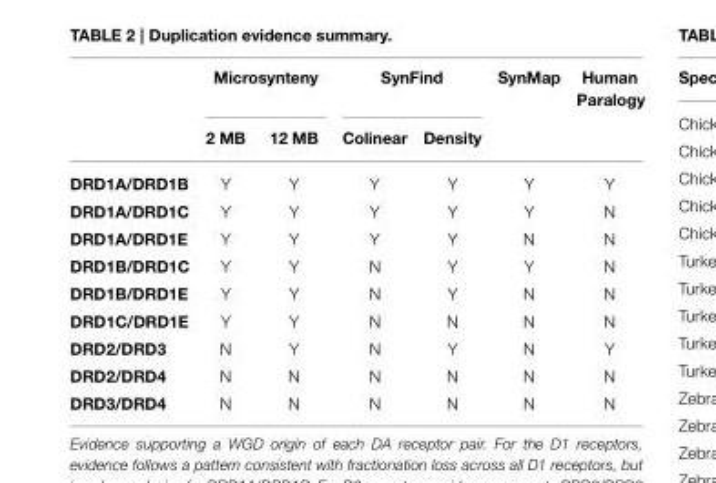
<table><thead><tr><td rowspan="2"></td><td colspan="2">Microsynteny</td><td colspan="2">SynFind</td><td rowspan="2">SynMap</td><td rowspan="2">Human Paralogy</td></tr><tr><td>2 MB</td><td>12 MB</td><td>Colinear</td><td>Density</td></tr></thead><tbody><tr><td>DRD1A/DRD1B</td><td>Y</td><td>Y</td><td>Y</td><td>Y</td><td>Y</td><td>Y</td></tr><tr><td>DRD1A/DRD1C</td><td>Y</td><td>Y</td><td>Y</td><td>Y</td><td>Y</td><td>N</td></tr><tr><td>DRD1A/DRD1E</td><td>Y</td><td>Y</td><td>Y</td><td>Y</td><td>N</td><td>N</td></tr><tr><td>DRD1B/DRD1C</td><td>Y</td><td>Y</td><td>N</td><td>Y</td><td>Y</td><td>N</td></tr><tr><td>DRD1B/DRD1E</td><td>Y</td><td>Y</td><td>N</td><td>Y</td><td>N</td><td>N</td></tr><tr><td>DRD1C/DRD1E</td><td>Y</td><td>Y</td><td>N</td><td>N</td><td>N</td><td>N</td></tr><tr><td>DRD2/DRD3</td><td>N</td><td>Y</td><td>N</td><td>Y</td><td>N</td><td>Y</td></tr><tr><td>DRD2/DRD4</td><td>N</td><td>N</td><td>N</td><td>N</td><td>N</td><td>N</td></tr><tr><td>DRD3/DRD4</td><td>N</td><td>N</td><td>N</td><td>N</td><td>N</td><td>N</td></tr></tbody></table>